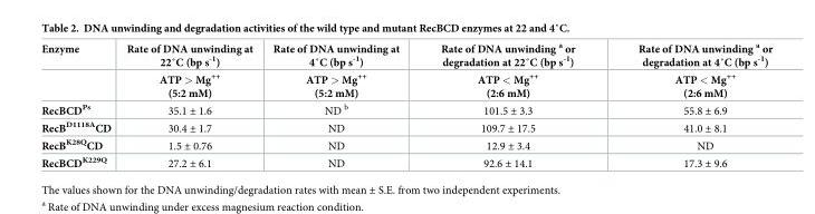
<table><thead><tr><td rowspan="2">Enzyme</td><td rowspan="2">Rate of DNA unwinding at 22˚C (bp s-1) ATP &gt; Mg++ (5:2 mM)</td><td rowspan="2">Rate of DNA unwinding at 4˚C (bp s-1) ATP &gt; Mg++ (5:2 mM)</td><td rowspan="2">Rate of DNA unwinding a or degradation at 22˚C (bp s-1) ATP &lt; Mg++ (2:6 mM)</td><td rowspan="2">Rate of DNA unwinding a or degradation at 4˚C (bp s-1) ATP &lt; Mg++ (2:6 mM)</td></tr><tr></tr></thead><tbody><tr><td>RecBCD<sup>Ps</sup></td><td>35.1 ± 1.6</td><td>ND <sup>b</sup></td><td>101.5 ± 3.3</td><td>55.8 ± 6.9</td></tr><tr><td>RecB<sup>D1118A</sup>CD</td><td>30.4 ± 1.7</td><td>ND</td><td>109.7 ± 17.5</td><td>41.0 ± 8.1</td></tr><tr><td>RecB<sup>K28Q</sup>CD</td><td>1.5 ± 0.76</td><td>ND</td><td>12.9 ± 3.4</td><td>ND</td></tr><tr><td>RecBCD<sup>K229Q</sup></td><td>27.2 ± 6.1</td><td>ND</td><td>92.6 ± 14.1</td><td>17.3 ± 9.6</td></tr></tbody></table>